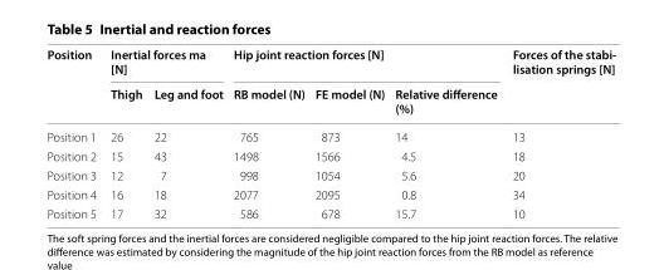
<table><thead><tr><td rowspan="2">Position</td><td colspan="2">Inertial forces ma [N]</td><td colspan="3">Hip joint reaction forces [N]</td><td rowspan="2">Forces of the stabi- lisation springs [N]</td></tr><tr><td>Thigh</td><td>Leg and foot</td><td>RB model (N)</td><td>FE model (N)</td><td>Relative difference (%)</td></tr></thead><tbody><tr><td>Position 1</td><td>26</td><td>22</td><td>765</td><td>873</td><td>14</td><td>13</td></tr><tr><td>Position 2</td><td>15</td><td>43</td><td>1498</td><td>1566</td><td>4.5</td><td>18</td></tr><tr><td>Position 3</td><td>12</td><td>7</td><td>998</td><td>1054</td><td>5.6</td><td>20</td></tr><tr><td>Position 4</td><td>16</td><td>18</td><td>2077</td><td>2095</td><td>0.8</td><td>34</td></tr><tr><td>Position 5</td><td>17</td><td>32</td><td>586</td><td>678</td><td>15.7</td><td>10</td></tr></tbody></table>